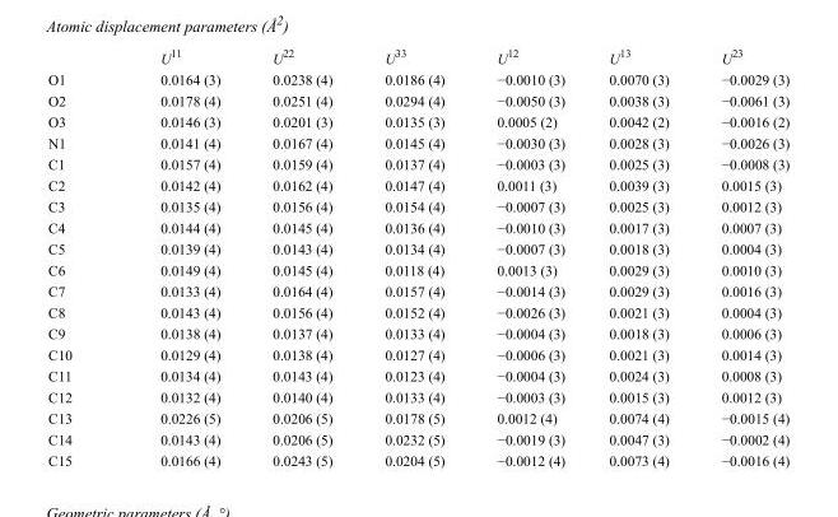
<table><thead><tr><td></td><td>U<sup>11</sup></td><td>U<sup>22</sup></td><td>U<sup>33</sup></td><td>U<sup>12</sup></td><td>U<sup>13</sup></td><td>U<sup>23</sup></td></tr></thead><tbody><tr><td>O1</td><td>0.0164 (3)</td><td>0.0238 (4)</td><td>0.0186 (4)</td><td>−0.0010 (3)</td><td>0.0070 (3)</td><td>−0.0029 (3)</td></tr><tr><td>O2</td><td>0.0178 (4)</td><td>0.0251 (4)</td><td>0.0294 (4)</td><td>−0.0050 (3)</td><td>0.0038 (3)</td><td>−0.0061 (3)</td></tr><tr><td>O3</td><td>0.0146 (3)</td><td>0.0201 (3)</td><td>0.0135 (3)</td><td>0.0005 (2)</td><td>0.0042 (2)</td><td>−0.0016 (2)</td></tr><tr><td>N1</td><td>0.0141 (4)</td><td>0.0167 (4)</td><td>0.0145 (4)</td><td>−0.0030 (3)</td><td>0.0028 (3)</td><td>−0.0026 (3)</td></tr><tr><td>C1</td><td>0.0157 (4)</td><td>0.0159 (4)</td><td>0.0137 (4)</td><td>−0.0003 (3)</td><td>0.0025 (3)</td><td>−0.0008 (3)</td></tr><tr><td>C2</td><td>0.0142 (4)</td><td>0.0162 (4)</td><td>0.0147 (4)</td><td>0.0011 (3)</td><td>0.0039 (3)</td><td>0.0015 (3)</td></tr><tr><td>C3</td><td>0.0135 (4)</td><td>0.0156 (4)</td><td>0.0154 (4)</td><td>−0.0007 (3)</td><td>0.0025 (3)</td><td>0.0012 (3)</td></tr><tr><td>C4</td><td>0.0144 (4)</td><td>0.0145 (4)</td><td>0.0136 (4)</td><td>−0.0010 (3)</td><td>0.0017 (3)</td><td>0.0007 (3)</td></tr><tr><td>C5</td><td>0.0139 (4)</td><td>0.0143 (4)</td><td>0.0134 (4)</td><td>−0.0007 (3)</td><td>0.0018 (3)</td><td>0.0004 (3)</td></tr><tr><td>C6</td><td>0.0149 (4)</td><td>0.0145 (4)</td><td>0.0118 (4)</td><td>0.0013 (3)</td><td>0.0029 (3)</td><td>0.0010 (3)</td></tr><tr><td>C7</td><td>0.0133 (4)</td><td>0.0164 (4)</td><td>0.0157 (4)</td><td>−0.0014 (3)</td><td>0.0029 (3)</td><td>0.0016 (3)</td></tr><tr><td>C8</td><td>0.0143 (4)</td><td>0.0156 (4)</td><td>0.0152 (4)</td><td>−0.0026 (3)</td><td>0.0021 (3)</td><td>0.0004 (3)</td></tr><tr><td>C9</td><td>0.0138 (4)</td><td>0.0137 (4)</td><td>0.0133 (4)</td><td>−0.0004 (3)</td><td>0.0018 (3)</td><td>0.0006 (3)</td></tr><tr><td>C10</td><td>0.0129 (4)</td><td>0.0138 (4)</td><td>0.0127 (4)</td><td>−0.0006 (3)</td><td>0.0021 (3)</td><td>0.0014 (3)</td></tr><tr><td>C11</td><td>0.0134 (4)</td><td>0.0143 (4)</td><td>0.0123 (4)</td><td>−0.0004 (3)</td><td>0.0024 (3)</td><td>0.0008 (3)</td></tr><tr><td>C12</td><td>0.0132 (4)</td><td>0.0140 (4)</td><td>0.0133 (4)</td><td>−0.0003 (3)</td><td>0.0015 (3)</td><td>0.0012 (3)</td></tr><tr><td>C13</td><td>0.0226 (5)</td><td>0.0206 (5)</td><td>0.0178 (5)</td><td>0.0012 (4)</td><td>0.0074 (4)</td><td>−0.0015 (4)</td></tr><tr><td>C14</td><td>0.0143 (4)</td><td>0.0206 (5)</td><td>0.0232 (5)</td><td>−0.0019 (3)</td><td>0.0047 (3)</td><td>−0.0002 (4)</td></tr><tr><td>C15</td><td>0.0166 (4)</td><td>0.0243 (5)</td><td>0.0204 (5)</td><td>−0.0012 (4)</td><td>0.0073 (4)</td><td>−0.0016 (4)</td></tr></tbody></table>